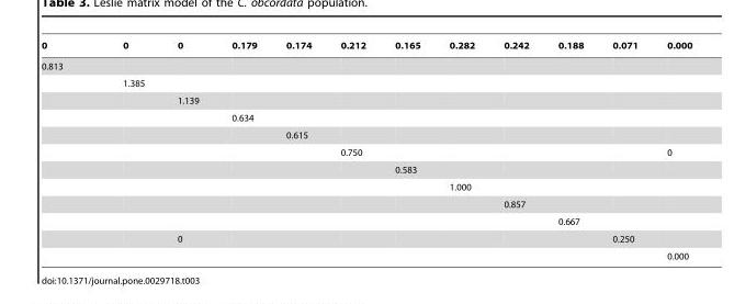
<table><thead><tr><td>0</td><td>0</td><td>0</td><td>0.179</td><td>0.174</td><td>0.212</td><td>0.165</td><td>0.282</td><td>0.242</td><td>0.188</td><td>0.071</td><td>0.000</td></tr></thead><tbody><tr><td colspan="12">0.813</td></tr><tr><td></td><td>1.385</td><td></td><td></td><td></td><td></td><td></td><td></td><td></td><td></td><td></td><td></td></tr><tr><td></td><td></td><td>1.139</td><td></td><td></td><td></td><td></td><td></td><td></td><td></td><td></td><td></td></tr><tr><td></td><td></td><td></td><td>0.634</td><td></td><td></td><td></td><td></td><td></td><td></td><td></td><td></td></tr><tr><td></td><td></td><td></td><td></td><td>0.615</td><td></td><td></td><td></td><td></td><td></td><td></td><td></td></tr><tr><td></td><td></td><td></td><td></td><td></td><td>0.750</td><td></td><td></td><td></td><td></td><td></td><td>0</td></tr><tr><td></td><td></td><td></td><td></td><td></td><td></td><td>0.583</td><td></td><td></td><td></td><td></td><td></td></tr><tr><td></td><td></td><td></td><td></td><td></td><td></td><td></td><td>1.000</td><td></td><td></td><td></td><td></td></tr><tr><td></td><td></td><td></td><td></td><td></td><td></td><td></td><td></td><td>0.857</td><td></td><td></td><td></td></tr><tr><td></td><td></td><td></td><td></td><td></td><td></td><td></td><td></td><td></td><td>0.667</td><td></td><td></td></tr><tr><td></td><td></td><td>0</td><td></td><td></td><td></td><td></td><td></td><td></td><td></td><td>0.250</td><td></td></tr><tr><td></td><td></td><td></td><td></td><td></td><td></td><td></td><td></td><td></td><td></td><td></td><td>0.000</td></tr></tbody></table>